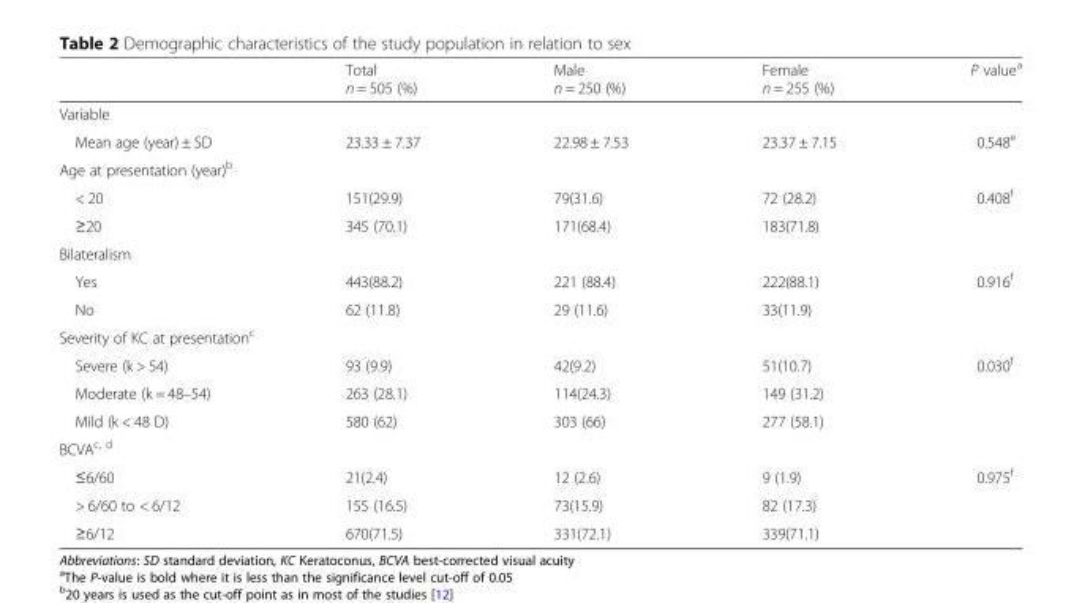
<table><thead><tr><td></td><td>Total n = 505 (%)</td><td>Male n = 250 (%)</td><td>Female n = 255 (%)</td><td>P value<sup>a</sup></td></tr></thead><tbody><tr><td colspan="5">Variable</td></tr><tr><td>Mean age (year) ± SD</td><td>23.33 ± 7.37</td><td>22.98 ± 7.53</td><td>23.37 ± 7.15</td><td>0.548<sup>e</sup></td></tr><tr><td colspan="5">Age at presentation (year)<sup>b</sup></td></tr><tr><td>&lt; 20</td><td>151(29.9)</td><td>79(31.6)</td><td>72 (28.2)</td><td rowspan="2">0.408<sup>f</sup></td></tr><tr><td>≥20</td><td>345 (70.1)</td><td>171(68.4)</td><td>183(71.8)</td></tr><tr><td colspan="5">Bilateralism</td></tr><tr><td>Yes</td><td>443(88.2)</td><td>221 (88.4)</td><td>222(88.1)</td><td rowspan="2">0.916<sup>f</sup></td></tr><tr><td>No</td><td>62 (11.8)</td><td>29 (11.6)</td><td>33(11.9)</td></tr><tr><td colspan="5">Severity of KC at presentation<sup>c</sup></td></tr><tr><td>Severe (k &gt; 54)</td><td>93 (9.9)</td><td>42(9.2)</td><td>51(10.7)</td><td rowspan="3">0.030<sup>f</sup></td></tr><tr><td>Moderate (k = 48–54)</td><td>263 (28.1)</td><td>114(24.3)</td><td>149 (31.2)</td></tr><tr><td>Mild (k &lt; 48 D)</td><td>580 (62)</td><td>303 (66)</td><td>277 (58.1)</td></tr><tr><td colspan="5">BCVA<sup>c, d</sup></td></tr><tr><td>≤6/60</td><td>21(2.4)</td><td>12 (2.6)</td><td>9 (1.9)</td><td rowspan="3">0.975<sup>f</sup></td></tr><tr><td>&gt; 6/60 to &lt; 6/12</td><td>155 (16.5)</td><td>73(15.9)</td><td>82 (17.3)</td></tr><tr><td>≥6/12</td><td>670(71.5)</td><td>331(72.1)</td><td>339(71.1)</td></tr></tbody></table>